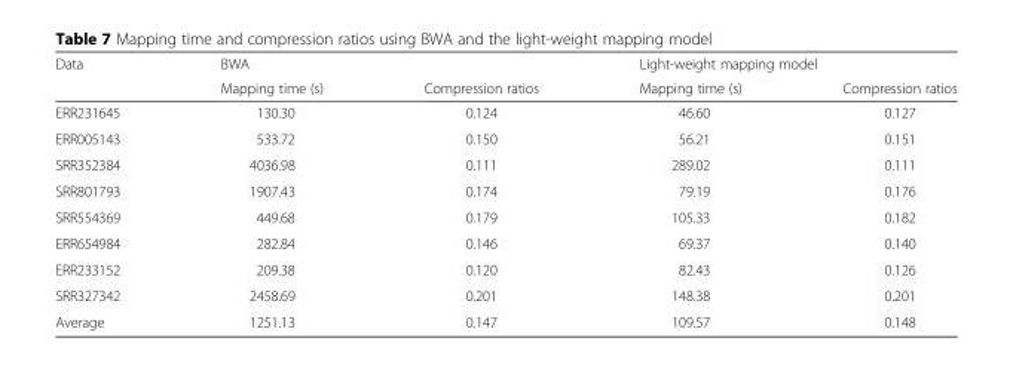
<table><thead><tr><td rowspan="2">Data</td><td colspan="2">BWA</td><td colspan="2">Light-weight mapping model</td></tr><tr><td>Mapping time (s)</td><td>Compression ratios</td><td>Mapping time (s)</td><td>Compression ratios</td></tr></thead><tbody><tr><td>ERR231645</td><td>130.30</td><td>0.124</td><td>46.60</td><td>0.127</td></tr><tr><td>ERR005143</td><td>533.72</td><td>0.150</td><td>56.21</td><td>0.151</td></tr><tr><td>SRR352384</td><td>4036.98</td><td>0.111</td><td>289.02</td><td>0.111</td></tr><tr><td>SRR801793</td><td>1907.43</td><td>0.174</td><td>79.19</td><td>0.176</td></tr><tr><td>SRR554369</td><td>449.68</td><td>0.179</td><td>105.33</td><td>0.182</td></tr><tr><td>ERR654984</td><td>282.84</td><td>0.146</td><td>69.37</td><td>0.140</td></tr><tr><td>ERR233152</td><td>209.38</td><td>0.120</td><td>82.43</td><td>0.126</td></tr><tr><td>SRR327342</td><td>2458.69</td><td>0.201</td><td>148.38</td><td>0.201</td></tr><tr><td>Average</td><td>1251.13</td><td>0.147</td><td>109.57</td><td>0.148</td></tr></tbody></table>